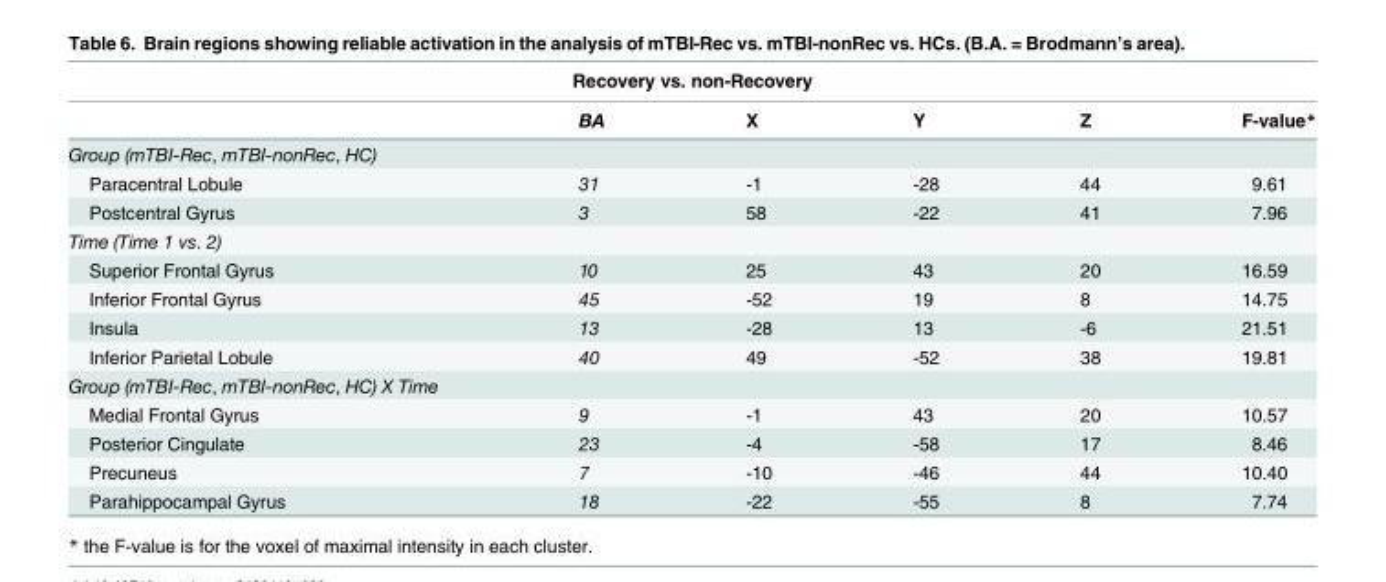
<table><thead><tr><td colspan="6">Recovery vs. non-Recovery</td></tr><tr><td></td><td>BA</td><td>X</td><td>Y</td><td>Z</td><td>F-value*</td></tr></thead><tbody><tr><td colspan="6">Group (mTBI-Rec, mTBI-nonRec, HC)</td></tr><tr><td>Paracentral Lobule</td><td>31</td><td>-1</td><td>-28</td><td>44</td><td>9.61</td></tr><tr><td>Postcentral Gyrus</td><td>3</td><td>58</td><td>-22</td><td>41</td><td>7.96</td></tr><tr><td colspan="6">Time (Time 1 vs. 2)</td></tr><tr><td>Superior Frontal Gyrus</td><td>10</td><td>25</td><td>43</td><td>20</td><td>16.59</td></tr><tr><td>Inferior Frontal Gyrus</td><td>45</td><td>-52</td><td>19</td><td>8</td><td>14.75</td></tr><tr><td>Insula</td><td>13</td><td>-28</td><td>13</td><td>-6</td><td>21.51</td></tr><tr><td>Inferior Parietal Lobule</td><td>40</td><td>49</td><td>-52</td><td>38</td><td>19.81</td></tr><tr><td colspan="6">Group (mTBI-Rec, mTBI-nonRec, HC) X Time</td></tr><tr><td>Medial Frontal Gyrus</td><td>9</td><td>-1</td><td>43</td><td>20</td><td>10.57</td></tr><tr><td>Posterior Cingulate</td><td>23</td><td>-4</td><td>-58</td><td>17</td><td>8.46</td></tr><tr><td>Precuneus</td><td>7</td><td>-10</td><td>-46</td><td>44</td><td>10.40</td></tr><tr><td>Parahippocampal Gyrus</td><td>18</td><td>-22</td><td>-55</td><td>8</td><td>7.74</td></tr></tbody></table>